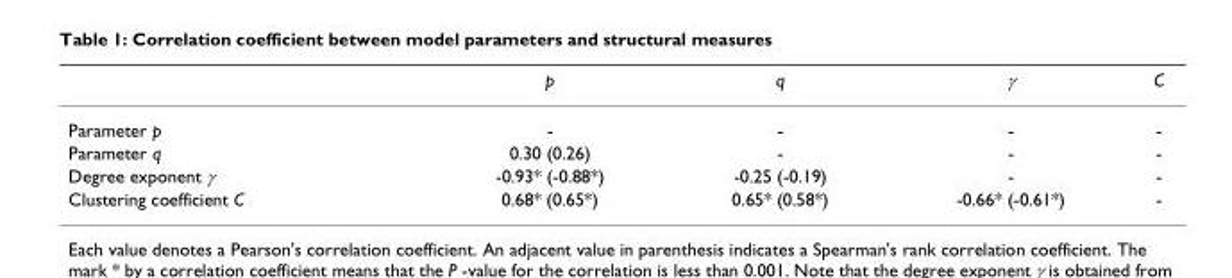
<table><thead><tr><td></td><td>p</td><td>q</td><td>γ</td><td>C</td></tr></thead><tbody><tr><td>Parameter p</td><td>-</td><td>-</td><td>-</td><td>-</td></tr><tr><td>Parameter q</td><td>0.30 (0.26)</td><td>-</td><td>-</td><td>-</td></tr><tr><td>Degree exponent γ</td><td>-0.93* (-0.88*)</td><td>-0.25 (-0.19)</td><td>-</td><td>-</td></tr><tr><td>Clustering coefficient C</td><td>0.68* (0.65*)</td><td>0.65* (0.58*)</td><td>-0.66* (-0.61*)</td><td>-</td></tr></tbody></table>